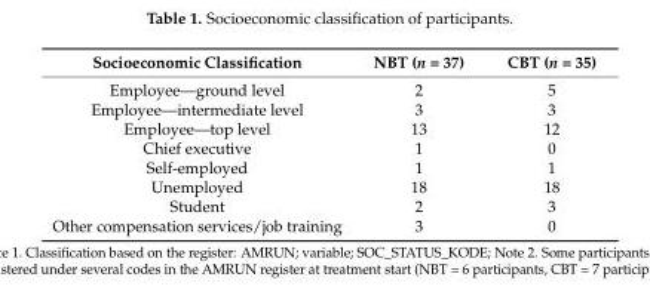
<table><thead><tr><td>Socioeconomic Classification</td><td>NBT (n = 37)</td><td>CBT (n = 35)</td></tr></thead><tbody><tr><td>Employee—ground level</td><td>2</td><td>5</td></tr><tr><td>Employee—intermediate level</td><td>3</td><td>3</td></tr><tr><td>Employee—top level</td><td>13</td><td>12</td></tr><tr><td>Chief executive</td><td>1</td><td>0</td></tr><tr><td>Self-employed</td><td>1</td><td>1</td></tr><tr><td>Unemployed</td><td>18</td><td>18</td></tr><tr><td>Student</td><td>2</td><td>3</td></tr><tr><td>Other compensation services/job training</td><td>3</td><td>0</td></tr></tbody></table>